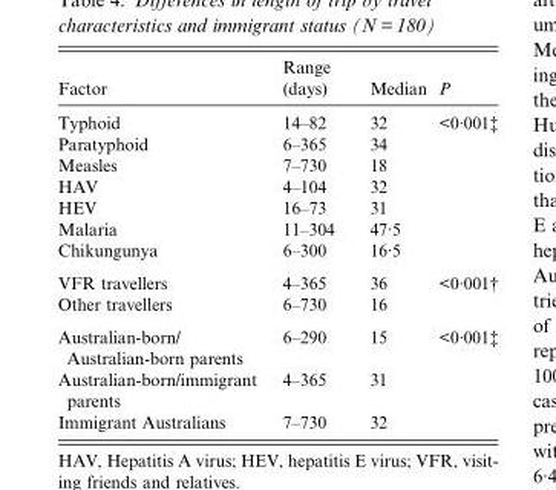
<table><thead><tr><td>Factor</td><td>Range (days)</td><td>Median</td><td>P</td></tr></thead><tbody><tr><td>Typhoid</td><td>14–82</td><td>32</td><td>&lt;0·001‡</td></tr><tr><td>Paratyphoid</td><td>6–365</td><td>34</td><td></td></tr><tr><td>Measles</td><td>7–730</td><td>18</td><td></td></tr><tr><td>HAV</td><td>4–104</td><td>32</td><td></td></tr><tr><td>HEV</td><td>16–73</td><td>31</td><td></td></tr><tr><td>Malaria</td><td>11–304</td><td>47·5</td><td></td></tr><tr><td>Chikungunya</td><td>6–300</td><td>16·5</td><td></td></tr><tr><td>VFR travellers</td><td>4–365</td><td>36</td><td>&lt;0·001†</td></tr><tr><td>Other travellers</td><td>6–730</td><td>16</td><td></td></tr><tr><td>Australian-born/ Australian-born parents</td><td>6–290</td><td>15</td><td>&lt;0·001‡</td></tr><tr><td>Australian-born/immigrant parents</td><td>4–365</td><td>31</td><td></td></tr><tr><td>Immigrant Australians</td><td>7–730</td><td>32</td><td></td></tr></tbody></table>